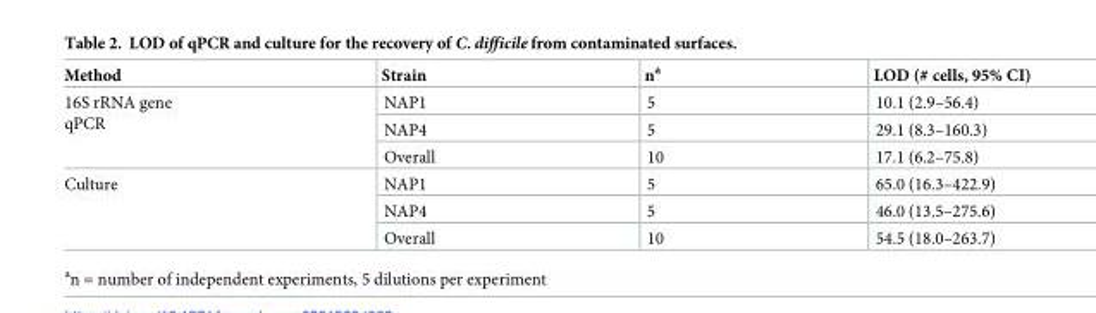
<table><thead><tr><td>Method</td><td>Strain</td><td>n<sup>a</sup></td><td>LOD (# cells, 95% CI)</td></tr></thead><tbody><tr><td rowspan="3">16S rRNA gene qPCR</td><td>NAP1</td><td>5</td><td>10.1 (2.9–56.4)</td></tr><tr><td>NAP4</td><td>5</td><td>29.1 (8.3–160.3)</td></tr><tr><td>Overall</td><td>10</td><td>17.1 (6.2–75.8)</td></tr><tr><td rowspan="3">Culture</td><td>NAP1</td><td>5</td><td>65.0 (16.3–422.9)</td></tr><tr><td>NAP4</td><td>5</td><td>46.0 (13.5–275.6)</td></tr><tr><td>Overall</td><td>10</td><td>54.5 (18.0–263.7)</td></tr></tbody></table>